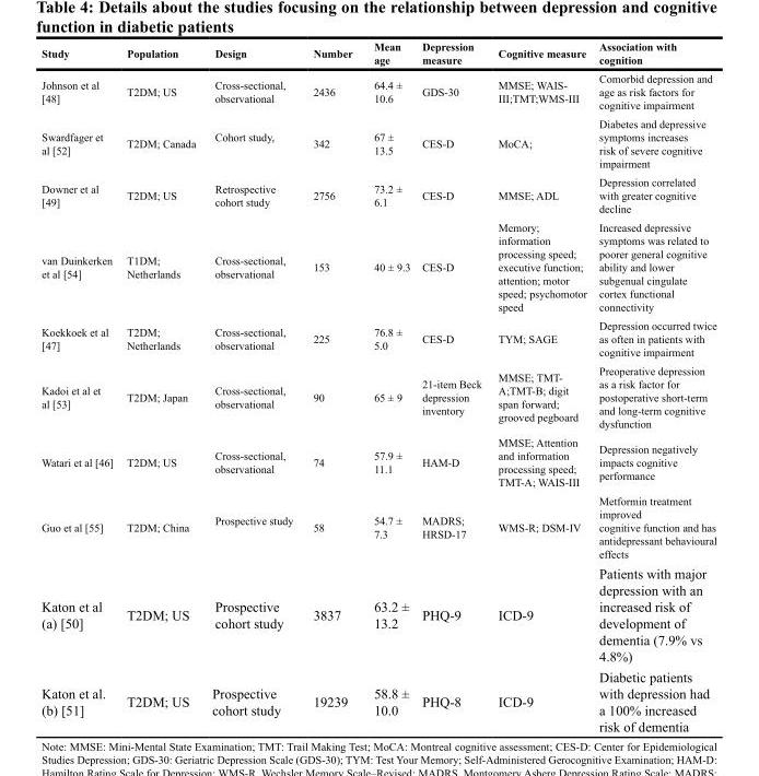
<table><thead><tr><td>Study</td><td>Population</td><td>Design</td><td>Number</td><td>Mean age</td><td>Depression measure</td><td>Cognitive measure</td><td>Association with cognition</td></tr></thead><tbody><tr><td>Johnson et al [48]</td><td>T2DM; US</td><td>Cross-sectional, observational</td><td>2436</td><td>64.4 ± 10.6</td><td>GDS-30</td><td>MMSE; WAIS- III;TMT;WMS-III</td><td>Comorbid depression and age as risk factors for cognitive impairment</td></tr><tr><td>Swardfager et al [52]</td><td>T2DM; Canada</td><td>Cohort study,</td><td>342</td><td>67 ± 13.5</td><td>CES-D</td><td>MoCA;</td><td>Diabetes and depressive symptoms increases risk of severe cognitive impairment</td></tr><tr><td>Downer et al [49]</td><td>T2DM; US</td><td>Retrospective cohort study</td><td>2756</td><td>73.2 ± 6.1</td><td>CES-D</td><td>MMSE; ADL</td><td>Depression correlated with greater cognitive decline</td></tr><tr><td>van Duinkerken et al [54]</td><td>T1DM; Netherlands</td><td>Cross-sectional, observational</td><td>153</td><td>40 ± 9.3</td><td>CES-D</td><td>Memory; information processing speed; executive function; attention; motor speed; psychomotor speed</td><td>Increased depressive symptoms was related to poorer general cognitive ability and lower subgenual cingulate cortex functional connectivity</td></tr><tr><td>Koekkoek et al [47]</td><td>T2DM; Netherlands</td><td>Cross-sectional, observational</td><td>225</td><td>76.8 ± 5.0</td><td>CES-D</td><td>TYM; SAGE</td><td>Depression occurred twice as often in patients with cognitive impairment</td></tr><tr><td>Kadoi et al et al [53]</td><td>T2DM; Japan</td><td>Cross-sectional, observational</td><td>90</td><td>65 ± 9</td><td>21-item Beck depression inventory</td><td>MMSE; TMT- A;TMT-B; digit span forward; grooved pegboard</td><td>Preoperative depression as a risk factor for postoperative short-term and long-term cognitive dysfunction</td></tr><tr><td>Watari et al [46]</td><td>T2DM; US</td><td>Cross-sectional, observational</td><td>74</td><td>57.9 ± 11.1</td><td>HAM-D</td><td>MMSE; Attention and information processing speed; TMT-A; WAIS-III</td><td>Depression negatively impacts cognitive performance</td></tr><tr><td>Guo et al [55]</td><td>T2DM; China</td><td>Prospective study</td><td>58</td><td>54.7 ± 7.3</td><td>MADRS; HRSD-17</td><td>WMS-R; DSM-IV</td><td>Metformin treatment improved cognitive function and has antidepressant behavioural effects</td></tr><tr><td>Katon et al (a) [50]</td><td>T2DM; US</td><td>Prospective cohort study</td><td>3837</td><td>63.2 ± 13.2</td><td>PHQ-9</td><td>ICD-9</td><td>Patients with major depression with an increased risk of development of dementia (7.9% vs 4.8%)</td></tr><tr><td>Katon et al. (b) [51]</td><td>T2DM; US</td><td>Prospective cohort study</td><td>19239</td><td>58.8 ± 10.0</td><td>PHQ-8</td><td>ICD-9</td><td>Diabetic patients with depression had a 100% increased risk of dementia</td></tr></tbody></table>